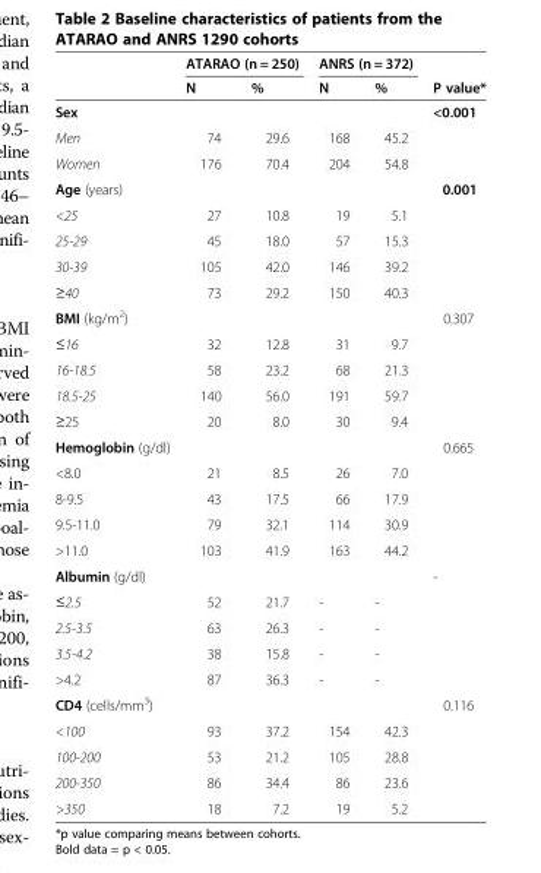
<table><thead><tr><td rowspan="2"></td><td colspan="2">ATARAO (n = 250)</td><td colspan="2">ANRS (n = 372)</td><td rowspan="2">P value*</td></tr><tr><td>N</td><td>%</td><td>N</td><td>%</td></tr></thead><tbody><tr><td>Sex</td><td></td><td></td><td></td><td></td><td>&lt;0.001</td></tr><tr><td>Men</td><td>74</td><td>29.6</td><td>168</td><td>45.2</td><td></td></tr><tr><td>Women</td><td>176</td><td>70.4</td><td>204</td><td>54.8</td><td></td></tr><tr><td>Age (years)</td><td></td><td></td><td></td><td></td><td>0.001</td></tr><tr><td>&lt;25</td><td>27</td><td>10.8</td><td>19</td><td>5.1</td><td></td></tr><tr><td>25-29</td><td>45</td><td>18.0</td><td>57</td><td>15.3</td><td></td></tr><tr><td>30-39</td><td>105</td><td>42.0</td><td>146</td><td>39.2</td><td></td></tr><tr><td>≥40</td><td>73</td><td>29.2</td><td>150</td><td>40.3</td><td></td></tr><tr><td>BMI (kg/m<sup>2</sup>)</td><td></td><td></td><td></td><td></td><td>0.307</td></tr><tr><td>≤16</td><td>32</td><td>12.8</td><td>31</td><td>9.7</td><td></td></tr><tr><td>16-18.5</td><td>58</td><td>23.2</td><td>68</td><td>21.3</td><td></td></tr><tr><td>18.5-25</td><td>140</td><td>56.0</td><td>191</td><td>59.7</td><td></td></tr><tr><td>≥25</td><td>20</td><td>8.0</td><td>30</td><td>9.4</td><td></td></tr><tr><td>Hemoglobin (g/dl)</td><td></td><td></td><td></td><td></td><td>0.665</td></tr><tr><td>&lt;8.0</td><td>21</td><td>8.5</td><td>26</td><td>7.0</td><td></td></tr><tr><td>8-9.5</td><td>43</td><td>17.5</td><td>66</td><td>17.9</td><td></td></tr><tr><td>9.5-11.0</td><td>79</td><td>32.1</td><td>114</td><td>30.9</td><td></td></tr><tr><td>&gt;11.0</td><td>103</td><td>41.9</td><td>163</td><td>44.2</td><td></td></tr><tr><td>Albumin (g/dl)</td><td></td><td></td><td></td><td></td><td>-</td></tr><tr><td>≤2.5</td><td>52</td><td>21.7</td><td>-</td><td>-</td><td></td></tr><tr><td>2.5-3.5</td><td>63</td><td>26.3</td><td>-</td><td>-</td><td></td></tr><tr><td>3.5-4.2</td><td>38</td><td>15.8</td><td>-</td><td>-</td><td></td></tr><tr><td>&gt;4.2</td><td>87</td><td>36.3</td><td>-</td><td>-</td><td></td></tr><tr><td>CD4 (cells/mm<sup>3</sup>)</td><td></td><td></td><td></td><td></td><td>0.116</td></tr><tr><td>&lt;100</td><td>93</td><td>37.2</td><td>154</td><td>42.3</td><td></td></tr><tr><td>100-200</td><td>53</td><td>21.2</td><td>105</td><td>28.8</td><td></td></tr><tr><td>200-350</td><td>86</td><td>34.4</td><td>86</td><td>23.6</td><td></td></tr><tr><td>&gt;350</td><td>18</td><td>7.2</td><td>19</td><td>5.2</td><td></td></tr></tbody></table>